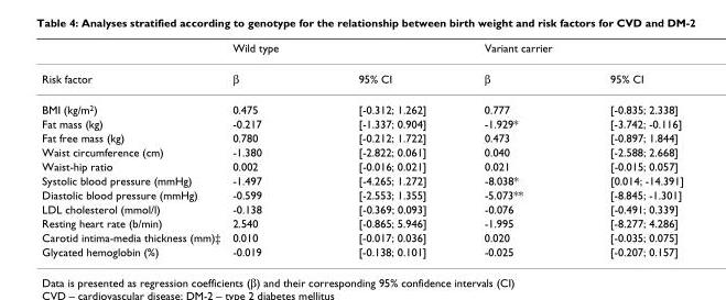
<table><thead><tr><td rowspan="2">Risk factor</td><td colspan="2">Wild type</td><td colspan="2">Variant carrier</td></tr><tr><td>β</td><td>95% CI</td><td>β</td><td>95% CI</td></tr></thead><tbody><tr><td>BMI (kg/m<sup>2</sup>)</td><td>0.475</td><td>[-0.312; 1.262]</td><td>0.777</td><td>[-0.835; 2.338]</td></tr><tr><td>Fat mass (kg)</td><td>-0.217</td><td>[-1.337; 0.904]</td><td>-1.929*</td><td>[-3.742; -0.116]</td></tr><tr><td>Fat free mass (kg)</td><td>0.780</td><td>[-0.212; 1.722]</td><td>0.473</td><td>[-0.897; 1.844]</td></tr><tr><td>Waist circumference (cm)</td><td>-1.380</td><td>[-2.822; 0.061]</td><td>0.040</td><td>[-2.588; 2.668]</td></tr><tr><td>Waist-hip ratio</td><td>0.002</td><td>[-0.016; 0.021]</td><td>0.021</td><td>[-0.015; 0.057]</td></tr><tr><td>Systolic blood pressure (mmHg)</td><td>-1.497</td><td>[-4.265; 1.272]</td><td>-8.038*</td><td>[0.014; -14.391]</td></tr><tr><td>Diastolic blood pressure (mmHg)</td><td>-0.599</td><td>[-2.553; 1.355]</td><td>-5.073**</td><td>[-8.845; -1.301]</td></tr><tr><td>LDL cholesterol (mmol/l)</td><td>-0.138</td><td>[-0.369; 0.093]</td><td>-0.076</td><td>[-0.491; 0.339]</td></tr><tr><td>Resting heart rate (b/min)</td><td>2.540</td><td>[-0.865; 5.946]</td><td>-1.995</td><td>[-8.277; 4.286]</td></tr><tr><td>Carotid intima-media thickness (mm)‡</td><td>0.010</td><td>[-0.017; 0.036]</td><td>0.020</td><td>[-0.035; 0.075]</td></tr><tr><td>Glycated hemoglobin (%)</td><td>-0.019</td><td>[-0.138; 0.101]</td><td>-0.025</td><td>[-0.207; 0.157]</td></tr></tbody></table>